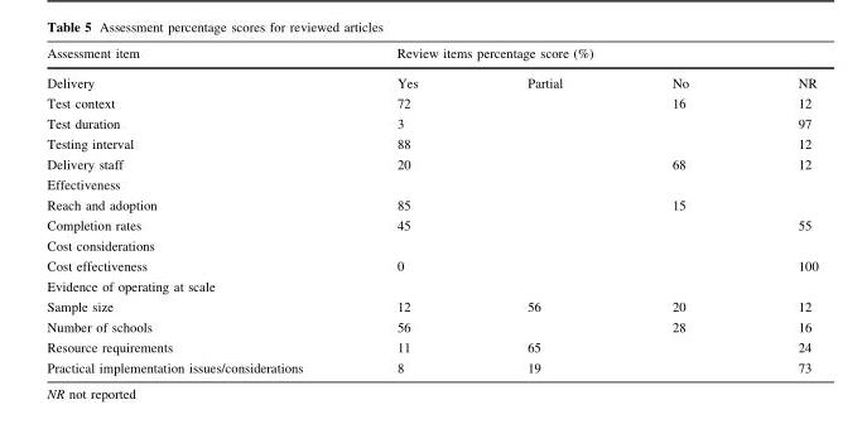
<table><thead><tr><td rowspan="2">Assessment item Delivery</td><td colspan="4">Review items percentage score (%)</td></tr><tr><td>Yes</td><td>Partial</td><td>No</td><td>NR</td></tr></thead><tbody><tr><td>Test context</td><td>72</td><td></td><td>16</td><td>12</td></tr><tr><td>Test duration</td><td>3</td><td></td><td></td><td>97</td></tr><tr><td>Testing interval</td><td>88</td><td></td><td></td><td>12</td></tr><tr><td>Delivery staff</td><td>20</td><td></td><td>68</td><td>12</td></tr><tr><td colspan="5">Effectiveness</td></tr><tr><td>Reach and adoption</td><td>85</td><td></td><td>15</td><td></td></tr><tr><td>Completion rates</td><td>45</td><td></td><td></td><td>55</td></tr><tr><td colspan="5">Cost considerations</td></tr><tr><td>Cost effectiveness</td><td>0</td><td></td><td></td><td>100</td></tr><tr><td colspan="5">Evidence of operating at scale</td></tr><tr><td>Sample size</td><td>12</td><td>56</td><td>20</td><td>12</td></tr><tr><td>Number of schools</td><td>56</td><td></td><td>28</td><td>16</td></tr><tr><td>Resource requirements</td><td>11</td><td>65</td><td></td><td>24</td></tr><tr><td>Practical implementation issues/considerations</td><td>8</td><td>19</td><td></td><td>73</td></tr></tbody></table>